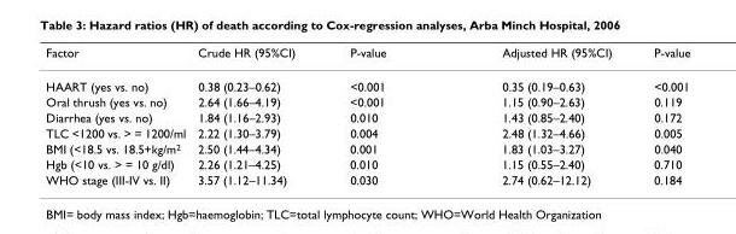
<table><thead><tr><td>Factor</td><td>Crude HR (95%CI)</td><td>P-value</td><td>Adjusted HR (95%CI)</td><td>P-value</td></tr></thead><tbody><tr><td>HAART (yes vs. no)</td><td>0.38 (0.23–0.62)</td><td>&lt;0.001</td><td>0.35 (0.19–0.63)</td><td>&lt;0.001</td></tr><tr><td>Oral thrush (yes vs. no)</td><td>2.64 (1.66–4.19)</td><td>&lt;0.001</td><td>1.15 (0.90–2.63)</td><td>0.119</td></tr><tr><td>Diarrhea (yes vs. no)</td><td>1.84 (1.16–2.93)</td><td>0.010</td><td>1.43 (0.85–2.40)</td><td>0.172</td></tr><tr><td>TLC &lt;1200 vs. &gt; = 1200/ml</td><td>2.22 (1.30–3.79)</td><td>0.004</td><td>2.48 (1.32–4.66)</td><td>0.005</td></tr><tr><td>BMI (&lt;18.5 vs. 18.5+kg/m<sup>2</sup></td><td>2.50 (1.44–4.34)</td><td>0.001</td><td>1.83 (1.03–3.27)</td><td>0.040</td></tr><tr><td>Hgb (&lt;10 vs. &gt; = 10 g/dl)</td><td>2.26 (1.21–4.25)</td><td>0.010</td><td>1.15 (0.55–2.40)</td><td>0.710</td></tr><tr><td>WHO stage (III-IV vs. II)</td><td>3.57 (1.12–11.34)</td><td>0.030</td><td>2.74 (0.62–12.12)</td><td>0.184</td></tr></tbody></table>